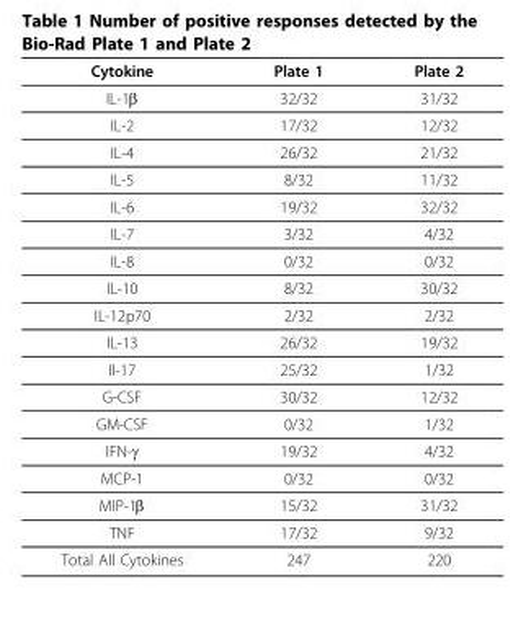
<table><thead><tr><td>Cytokine</td><td>Plate 1</td><td>Plate 2</td></tr></thead><tbody><tr><td>IL-1β</td><td>32/32</td><td>31/32</td></tr><tr><td>IL-2</td><td>17/32</td><td>12/32</td></tr><tr><td>IL-4</td><td>26/32</td><td>21/32</td></tr><tr><td>IL-5</td><td>8/32</td><td>11/32</td></tr><tr><td>IL-6</td><td>19/32</td><td>32/32</td></tr><tr><td>IL-7</td><td>3/32</td><td>4/32</td></tr><tr><td>IL-8</td><td>0/32</td><td>0/32</td></tr><tr><td>IL-10</td><td>8/32</td><td>30/32</td></tr><tr><td>IL-12p70</td><td>2/32</td><td>2/32</td></tr><tr><td>IL-13</td><td>26/32</td><td>19/32</td></tr><tr><td>Il-17</td><td>25/32</td><td>1/32</td></tr><tr><td>G-CSF</td><td>30/32</td><td>12/32</td></tr><tr><td>GM-CSF</td><td>0/32</td><td>1/32</td></tr><tr><td>IFN-γ</td><td>19/32</td><td>4/32</td></tr><tr><td>MCP-1</td><td>0/32</td><td>0/32</td></tr><tr><td>MIP-1β</td><td>15/32</td><td>31/32</td></tr><tr><td>TNF</td><td>17/32</td><td>9/32</td></tr><tr><td>Total All Cytokines</td><td>247</td><td>220</td></tr></tbody></table>